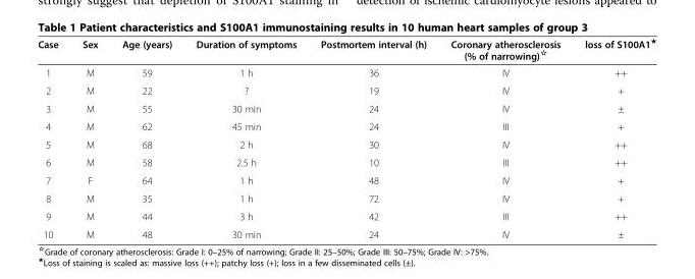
<table><thead><tr><td>Case</td><td>Sex</td><td>Age (years)</td><td>Duration of symptoms</td><td>Postmortem interval (h)</td><td>Coronary atherosclerosis (% of narrowing)<sup>☆</sup></td><td>loss of S100A1<sup>★</sup></td></tr></thead><tbody><tr><td>1</td><td>M</td><td>59</td><td>1 h</td><td>36</td><td>IV</td><td>++</td></tr><tr><td>2</td><td>M</td><td>22</td><td>?</td><td>19</td><td>IV</td><td>+</td></tr><tr><td>3</td><td>M</td><td>55</td><td>30 min</td><td>24</td><td>IV</td><td>±</td></tr><tr><td>4</td><td>M</td><td>62</td><td>45 min</td><td>24</td><td>III</td><td>+</td></tr><tr><td>5</td><td>M</td><td>68</td><td>2 h</td><td>30</td><td>IV</td><td>++</td></tr><tr><td>6</td><td>M</td><td>58</td><td>2.5 h</td><td>10</td><td>III</td><td>++</td></tr><tr><td>7</td><td>F</td><td>64</td><td>1 h</td><td>48</td><td>IV</td><td>+</td></tr><tr><td>8</td><td>M</td><td>35</td><td>1 h</td><td>72</td><td>IV</td><td>+</td></tr><tr><td>9</td><td>M</td><td>44</td><td>3 h</td><td>42</td><td>III</td><td>++</td></tr><tr><td>10</td><td>M</td><td>48</td><td>30 min</td><td>24</td><td>IV</td><td>±</td></tr></tbody></table>